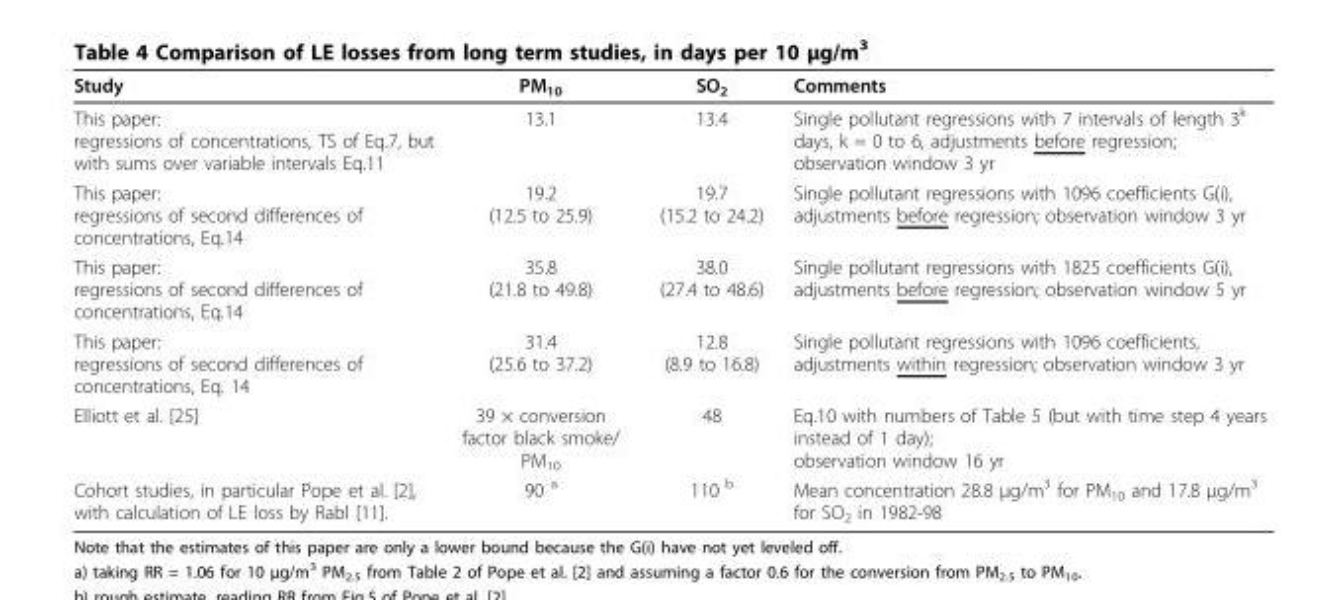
<table><thead><tr><td>Study</td><td>PM<sub>10</sub></td><td>SO<sub>2</sub></td><td>Comments</td></tr></thead><tbody><tr><td>This paper: regressions of concentrations, TS of Eq.7, but with sums over variable intervals Eq.11</td><td>13.1</td><td>13.4</td><td>Single pollutant regressions with 7 intervals of length 3<sup>k</sup> days, k = 0 to 6, adjustments before regression; observation window 3 yr</td></tr><tr><td>This paper: regressions of second differences of concentrations, Eq.14</td><td>19.2 (12.5 to 25.9)</td><td>19.7 (15.2 to 24.2)</td><td>Single pollutant regressions with 1096 coefficients G(i), adjustments before regression; observation window 3 yr</td></tr><tr><td>This paper: regressions of second differences of concentrations, Eq.14</td><td>35.8 (21.8 to 49.8)</td><td>38.0 (27.4 to 48.6)</td><td>Single pollutant regressions with 1825 coefficients G(i), adjustments before regression; observation window 5 yr</td></tr><tr><td>This paper: regressions of second differences of concentrations, Eq. 14</td><td>31.4 (25.6 to 37.2)</td><td>12.8 (8.9 to 16.8)</td><td>Single pollutant regressions with 1096 coefficients, adjustments within regression; observation window 3 yr</td></tr><tr><td>Elliott et al. [25]</td><td>39 × conversion factor black smoke/ PM<sub>10</sub></td><td>48</td><td>Eq.10 with numbers of Table 5 (but with time step 4 years instead of 1 day); observation window 16 yr</td></tr><tr><td>Cohort studies, in particular Pope et al. [2], with calculation of LE loss by Rabl [11].</td><td>90 <sup>a</sup></td><td>110 <sup>b</sup></td><td>Mean concentration 28.8 μg/m<sup>3</sup> for PM<sub>10</sub> and 17.8 μg/m<sup>3</sup> for SO<sub>2</sub> in 1982-98</td></tr></tbody></table>